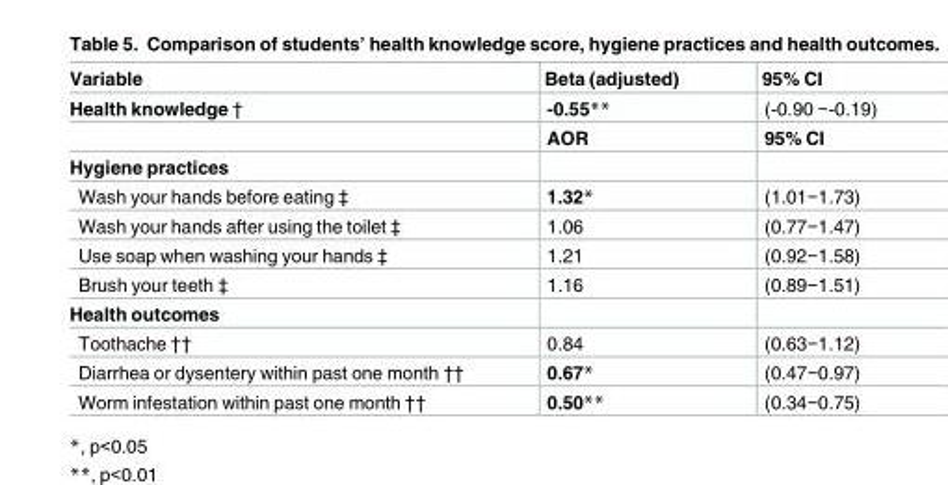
<table><thead><tr><td>Variable</td><td>Beta (adjusted)</td><td>95% CI</td></tr></thead><tbody><tr><td rowspan="2">Health knowledge †</td><td>-0.55**</td><td>(-0.90 −-0.19)</td></tr><tr><td>AOR</td><td>95% CI</td></tr><tr><td colspan="3">Hygiene practices</td></tr><tr><td>Wash your hands before eating ‡</td><td>1.32*</td><td>(1.01−1.73)</td></tr><tr><td>Wash your hands after using the toilet ‡</td><td>1.06</td><td>(0.77−1.47)</td></tr><tr><td>Use soap when washing your hands ‡</td><td>1.21</td><td>(0.92−1.58)</td></tr><tr><td>Brush your teeth ‡</td><td>1.16</td><td>(0.89−1.51)</td></tr><tr><td colspan="3">Health outcomes</td></tr><tr><td>Toothache ††</td><td>0.84</td><td>(0.63−1.12)</td></tr><tr><td>Diarrhea or dysentery within past one month ††</td><td>0.67*</td><td>(0.47−0.97)</td></tr><tr><td>Worm infestation within past one month ††</td><td>0.50**</td><td>(0.34−0.75)</td></tr></tbody></table>